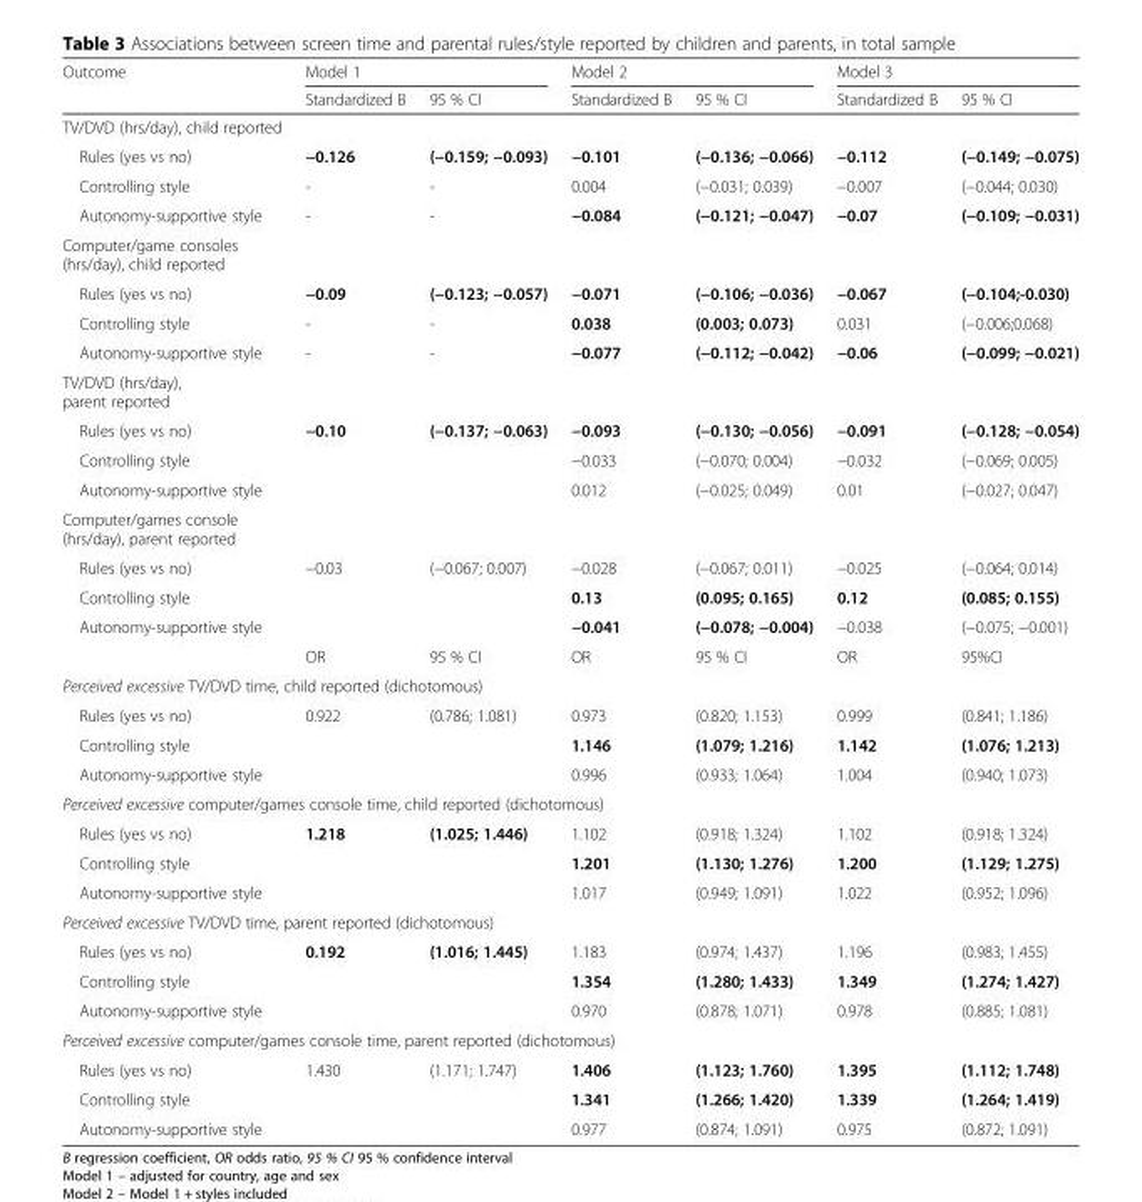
<table><thead><tr><td rowspan="2">Outcome</td><td colspan="2">Model 1</td><td colspan="2">Model 2</td><td colspan="2">Model 3</td></tr><tr><td>Standardized B</td><td>95 % CI</td><td>Standardized B</td><td>95 % CI</td><td>Standardized B</td><td>95 % CI</td></tr></thead><tbody><tr><td colspan="7">TV/DVD (hrs/day), child reported</td></tr><tr><td>Rules (yes vs no)</td><td>−0.126</td><td>(−0.159; −0.093)</td><td>−0.101</td><td>(−0.136; −0.066)</td><td>−0.112</td><td>(−0.149; −0.075)</td></tr><tr><td>Controlling style</td><td>-</td><td>-</td><td>0.004</td><td>(−0.031; 0.039)</td><td>−0.007</td><td>(−0.044; 0.030)</td></tr><tr><td>Autonomy-supportive style</td><td>-</td><td>-</td><td>−0.084</td><td>(−0.121; −0.047)</td><td>−0.07</td><td>(−0.109; −0.031)</td></tr><tr><td colspan="7">Computer/game consoles (hrs/day), child reported</td></tr><tr><td>Rules (yes vs no)</td><td>−0.09</td><td>(−0.123; −0.057)</td><td>−0.071</td><td>(−0.106; −0.036)</td><td>−0.067</td><td>(−0.104;-0.030)</td></tr><tr><td>Controlling style</td><td>-</td><td>-</td><td>0.038</td><td>(0.003; 0.073)</td><td>0.031</td><td>(−0.006;0.068)</td></tr><tr><td>Autonomy-supportive style</td><td>-</td><td>-</td><td>−0.077</td><td>(−0.112; −0.042)</td><td>−0.06</td><td>(−0.099; −0.021)</td></tr><tr><td colspan="7">TV/DVD (hrs/day), parent reported</td></tr><tr><td>Rules (yes vs no)</td><td>−0.10</td><td>(−0.137; −0.063)</td><td>−0.093</td><td>(−0.130; −0.056)</td><td>−0.091</td><td>(−0.128; −0.054)</td></tr><tr><td>Controlling style</td><td></td><td></td><td>−0.033</td><td>(−0.070; 0.004)</td><td>−0.032</td><td>(−0.069; 0.005)</td></tr><tr><td>Autonomy-supportive style</td><td></td><td></td><td>0.012</td><td>(−0.025; 0.049)</td><td>0.01</td><td>(−0.027; 0.047)</td></tr><tr><td colspan="7">Computer/games console (hrs/day), parent reported</td></tr><tr><td>Rules (yes vs no)</td><td>−0.03</td><td>(−0.067; 0.007)</td><td>−0.028</td><td>(−0.067; 0.011)</td><td>−0.025</td><td>(−0.064; 0.014)</td></tr><tr><td>Controlling style</td><td></td><td></td><td>0.13</td><td>(0.095; 0.165)</td><td>0.12</td><td>(0.085; 0.155)</td></tr><tr><td rowspan="2">Autonomy-supportive style</td><td></td><td></td><td>−0.041</td><td>(−0.078; −0.004)</td><td>−0.038</td><td>(−0.075; −0.001)</td></tr><tr><td>OR</td><td>95 % CI</td><td>OR</td><td>95 % CI</td><td>OR</td><td>95%CI</td></tr><tr><td colspan="7">Perceived excessive TV/DVD time, child reported (dichotomous)</td></tr><tr><td>Rules (yes vs no)</td><td>0.922</td><td>(0.786; 1.081)</td><td>0.973</td><td>(0.820; 1.153)</td><td>0.999</td><td>(0.841; 1.186)</td></tr><tr><td>Controlling style</td><td></td><td></td><td>1.146</td><td>(1.079; 1.216)</td><td>1.142</td><td>(1.076; 1.213)</td></tr><tr><td>Autonomy-supportive style</td><td></td><td></td><td>0.996</td><td>(0.933; 1.064)</td><td>1.004</td><td>(0.940; 1.073)</td></tr><tr><td colspan="7">Perceived excessive computer/games console time, child reported (dichotomous)</td></tr><tr><td>Rules (yes vs no)</td><td>1.218</td><td>(1.025; 1.446)</td><td>1.102</td><td>(0.918; 1.324)</td><td>1.102</td><td>(0.918; 1.324)</td></tr><tr><td>Controlling style</td><td></td><td></td><td>1.201</td><td>(1.130; 1.276)</td><td>1.200</td><td>(1.129; 1.275)</td></tr><tr><td>Autonomy-supportive style</td><td></td><td></td><td>1.017</td><td>(0.949; 1.091)</td><td>1.022</td><td>(0.952; 1.096)</td></tr><tr><td colspan="7">Perceived excessive TV/DVD time, parent reported (dichotomous)</td></tr><tr><td>Rules (yes vs no)</td><td>0.192</td><td>(1.016; 1.445)</td><td>1.183</td><td>(0.974; 1.437)</td><td>1.196</td><td>(0.983; 1.455)</td></tr><tr><td>Controlling style</td><td></td><td></td><td>1.354</td><td>(1.280; 1.433)</td><td>1.349</td><td>(1.274; 1.427)</td></tr><tr><td>Autonomy-supportive style</td><td></td><td></td><td>0.970</td><td>(0.878; 1.071)</td><td>0.978</td><td>(0.885; 1.081)</td></tr><tr><td colspan="7">Perceived excessive computer/games console time, parent reported (dichotomous)</td></tr><tr><td>Rules (yes vs no)</td><td>1.430</td><td>(1.171; 1.747)</td><td>1.406</td><td>(1.123; 1.760)</td><td>1.395</td><td>(1.112; 1.748)</td></tr><tr><td>Controlling style</td><td></td><td></td><td>1.341</td><td>(1.266; 1.420)</td><td>1.339</td><td>(1.264; 1.419)</td></tr><tr><td>Autonomy-supportive style</td><td></td><td></td><td>0.977</td><td>(0.874; 1.091)</td><td>0.975</td><td>(0.872; 1.091)</td></tr></tbody></table>